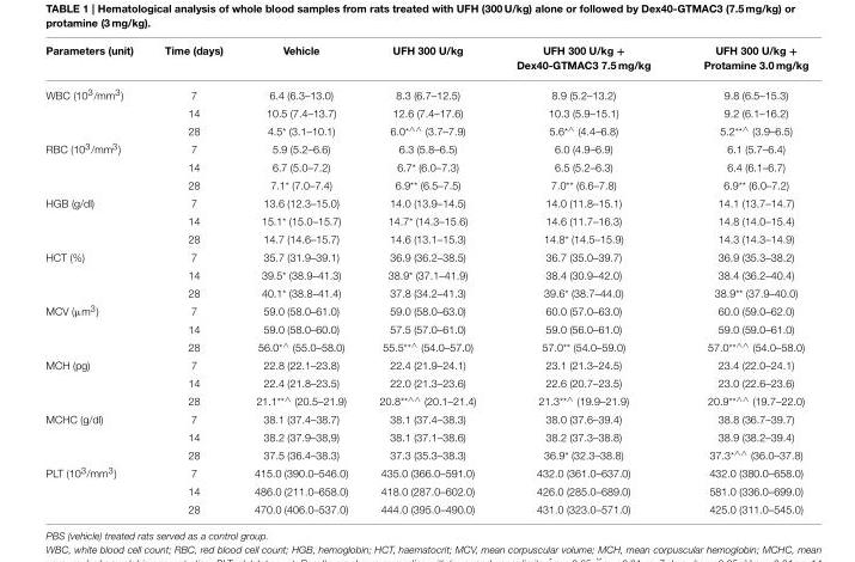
<table><thead><tr><td>Parameters (unit)</td><td>Time (days)</td><td>Vehicle</td><td>UFH 300 U/kg</td><td>UFH 300 U/kg + Dex40-GTMAC3 7.5 mg/kg</td><td>UFH 300 U/kg + Protamine 3.0 mg/kg</td></tr></thead><tbody><tr><td rowspan="3">WBC (10<sup>3</sup>/mm<sup>3</sup>)</td><td>7</td><td>6.4 (6.3–13.0)</td><td>8.3 (6.7–12.5)</td><td>8.9 (5.2–13.2)</td><td>9.8 (6.5–15.3)</td></tr><tr><td>14</td><td>10.5 (7.4–13.7)</td><td>12.6 (7.4–17.6)</td><td>10.3 (5.9–15.1)</td><td>9.2 (6.1–16.2)</td></tr><tr><td>28</td><td>4.5* (3.1–10.1)</td><td>6.0<sup>*∧∧</sup> (3.7–7.9)</td><td>5.6<sup>*∧</sup> (4.4–6.8)</td><td>5.2<sup>**∧</sup> (3.9–6.5)</td></tr><tr><td rowspan="3">RBC (10<sup>3</sup>/mm<sup>3</sup>)</td><td>7</td><td>5.9 (5.2–6.6)</td><td>6.3 (5.8–6.5)</td><td>6.0 (4.9–6.9)</td><td>6.1 (5.7–6.4)</td></tr><tr><td>14</td><td>6.7 (5.0–7.2)</td><td>6.7* (6.0–7.3)</td><td>6.5 (5.2–6.3)</td><td>6.4 (6.1–6.7)</td></tr><tr><td>28</td><td>7.1* (7.0–7.4)</td><td>6.9** (6.5–7.5)</td><td>7.0** (6.6–7.8)</td><td>6.9** (6.0–7.2)</td></tr><tr><td rowspan="3">HGB (g/dl)</td><td>7</td><td>13.6 (12.3–15.0)</td><td>14.0 (13.9–14.5)</td><td>14.0 (11.8–15.1)</td><td>14.1 (13.7–14.7)</td></tr><tr><td>14</td><td>15.1* (15.0–15.7)</td><td>14.7* (14.3–15.6)</td><td>14.6 (11.7–16.3)</td><td>14.8 (14.0–15.4)</td></tr><tr><td>28</td><td>14.7 (14.6–15.7)</td><td>14.6 (13.1–15.3)</td><td>14.8* (14.5–15.9)</td><td>14.3 (14.3–14.9)</td></tr><tr><td rowspan="3">HCT (%)</td><td>7</td><td>35.7 (31.9–39.1)</td><td>36.9 (36.2–38.5)</td><td>36.7 (35.0–39.7)</td><td>36.9 (35.3–38.2)</td></tr><tr><td>14</td><td>39.5* (38.9–41.3)</td><td>38.9* (37.1–41.9)</td><td>38.4 (30.9–42.0)</td><td>38.4 (36.2–40.4)</td></tr><tr><td>28</td><td>40.1* (38.8–41.4)</td><td>37.8 (34.2–41.3)</td><td>39.6* (38.7–44.0)</td><td>38.9** (37.9–40.0)</td></tr><tr><td rowspan="3">MCV (µm<sup>3</sup>)</td><td>7</td><td>59.0 (58.0–61.0)</td><td>59.0 (58.0–63.0)</td><td>60.0 (57.0–63.0)</td><td>60.0 (59.0–62.0)</td></tr><tr><td>14</td><td>59.0 (58.0–60.0)</td><td>57.5 (57.0–61.0)</td><td>59.0 (56.0–61.0)</td><td>59.0 (59.0–61.0)</td></tr><tr><td>28</td><td>56.0<sup>*∧</sup> (55.0–58.0)</td><td>55.5<sup>**∧</sup> (54.0–57.0)</td><td>57.0** (54.0–59.0)</td><td>57.0<sup>**∧∧</sup> (54.0–58.0)</td></tr><tr><td rowspan="3">MCH (pg)</td><td>7</td><td>22.8 (22.1–23.8)</td><td>22.4 (21.9–24.1)</td><td>23.1 (21.3–24.5)</td><td>23.4 (22.0–24.1)</td></tr><tr><td>14</td><td>22.4 (21.8–23.5)</td><td>22.0 (21.3–23.6)</td><td>22.6 (20.7–23.5)</td><td>23.0 (22.6–23.6)</td></tr><tr><td>28</td><td>21.1<sup>**∧</sup> (20.5–21.9)</td><td>20.8<sup>**∧∧</sup> (20.1–21.4)</td><td>21.3<sup>**∧</sup> (19.9–21.9)</td><td>20.9<sup>**∧∧</sup> (19.7–22.0)</td></tr><tr><td rowspan="3">MCHC (g/dl)</td><td>7</td><td>38.1 (37.4–38.7)</td><td>38.1 (37.4–38.3)</td><td>38.0 (37.6–39.4)</td><td>38.8 (36.7–39.7)</td></tr><tr><td>14</td><td>38.2 (37.9–38,9)</td><td>38.1 (37.1–38.6)</td><td>38.2 (37.3–38.8)</td><td>38.9 (38.2–39.4)</td></tr><tr><td>28</td><td>37.5 (36.4–38.3)</td><td>37.3 (35.3–38.3)</td><td>36.9* (32.3–38.8)</td><td>37.3<sup>*∧∧</sup> (36.0–37.8)</td></tr><tr><td rowspan="3">PLT (10<sup>3</sup>/mm<sup>3</sup>)</td><td>7</td><td>415.0 (390.0–546.0)</td><td>435.0 (366.0–591.0)</td><td>432.0 (361.0–637.0)</td><td>432.0 (380.0–658.0)</td></tr><tr><td>14</td><td>486.0 (211.0–658.0)</td><td>418.0 (287.0–602.0)</td><td>426.0 (285.0–689.0)</td><td>581.0 (336.0–699.0)</td></tr><tr><td>28</td><td>470.0 (406.0–537.0)</td><td>444.0 (395.0–490.0)</td><td>431.0 (323.0–571.0)</td><td>425.0 (311.0–545.0)</td></tr></tbody></table>